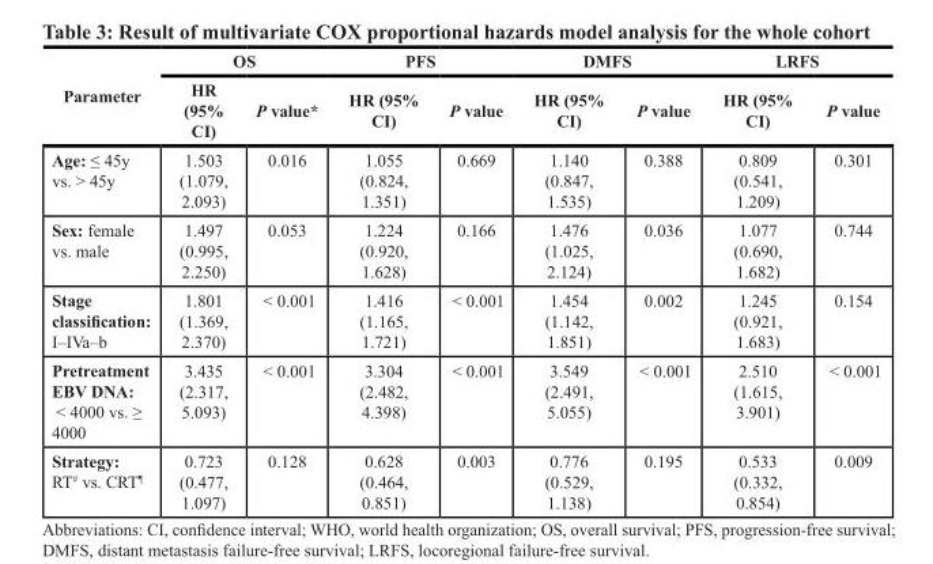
<table><thead><tr><td rowspan="2">Parameter</td><td colspan="2">OS</td><td colspan="2">PFS</td><td colspan="2">DMFS</td><td colspan="2">LRFS</td></tr><tr><td>HR (95% CI)</td><td>P value*</td><td>HR (95% CI)</td><td>P value</td><td>HR (95% CI)</td><td>P value</td><td>HR (95% CI)</td><td>P value</td></tr></thead><tbody><tr><td>Age: ≤ 45y vs. &gt; 45y</td><td>1.503 (1.079, 2.093)</td><td>0.016</td><td>1.055 (0.824, 1.351)</td><td>0.669</td><td>1.140 (0.847, 1.535)</td><td>0.388</td><td>0.809 (0.541, 1.209)</td><td>0.301</td></tr><tr><td>Sex: female vs. male</td><td>1.497 (0.995, 2.250)</td><td>0.053</td><td>1.224 (0.920, 1.628)</td><td>0.166</td><td>1.476 (1.025, 2.124)</td><td>0.036</td><td>1.077 (0.690, 1.682)</td><td>0.744</td></tr><tr><td>Stage classification: I–IVa–b</td><td>1.801 (1.369, 2.370)</td><td>&lt; 0.001</td><td>1.416 (1.165, 1.721)</td><td>&lt; 0.001</td><td>1.454 (1.142, 1.851)</td><td>0.002</td><td>1.245 (0.921, 1.683)</td><td>0.154</td></tr><tr><td>Pretreatment EBV DNA: &lt; 4000 vs. ≥ 4000</td><td>3.435 (2.317, 5.093)</td><td>&lt; 0.001</td><td>3.304 (2.482, 4.398)</td><td>&lt; 0.001</td><td>3.549 (2.491, 5.055)</td><td>&lt; 0.001</td><td>2.510 (1.615, 3.901)</td><td>&lt; 0.001</td></tr><tr><td>Strategy: RT<sup>#</sup> vs. CRT<sup>¶</sup></td><td>0.723 (0.477, 1.097)</td><td>0.128</td><td>0.628 (0.464, 0.851)</td><td>0.003</td><td>0.776 (0.529, 1.138)</td><td>0.195</td><td>0.533 (0.332, 0.854)</td><td>0.009</td></tr></tbody></table>